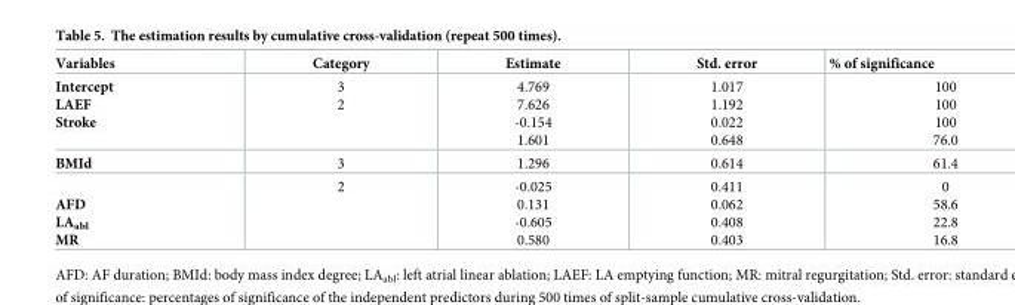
<table><thead><tr><td>Variables</td><td>Category</td><td>Estimate</td><td>Std. error</td><td>% of significance</td></tr></thead><tbody><tr><td>Intercept LAEF Stroke</td><td>3 2</td><td>4.769 7.626 -0.154 1.601</td><td>1.017 1.192 0.022 0.648</td><td>100 100 100 76.0</td></tr><tr><td>BMId</td><td>3</td><td>1.296</td><td>0.614</td><td>61.4</td></tr><tr><td>AFD LA<sub>abl</sub> MR</td><td>2</td><td>-0.025 0.131 -0.605 0.580</td><td>0.411 0.062 0.408 0.403</td><td>0 58.6 22.8 16.8</td></tr></tbody></table>